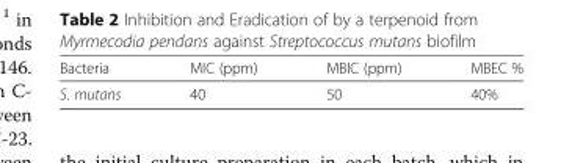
<table><thead><tr><td>Bacteria</td><td>MIC (ppm)</td><td>MBIC (ppm)</td><td>MBEC %</td></tr></thead><tbody><tr><td>S. mutans</td><td>40</td><td>50</td><td>40%</td></tr></tbody></table>